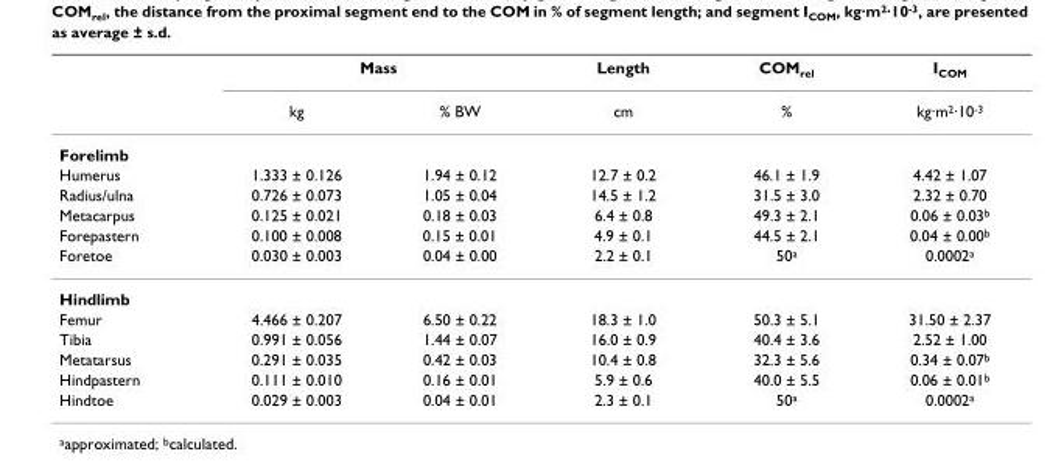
<table><thead><tr><td rowspan="2"></td><td colspan="2">Mass</td><td rowspan="2">Length cm</td><td rowspan="2">COM<sub>rel</sub> %</td><td rowspan="2">I<sub>COM</sub> kg·m<sup>2</sup>·10<sup>-3</sup></td></tr><tr><td>kg</td><td>% BW</td></tr></thead><tbody><tr><td colspan="6">Forelimb</td></tr><tr><td>Humerus</td><td>1.333 ± 0.126</td><td>1.94 ± 0.12</td><td>12.7 ± 0.2</td><td>46.1 ± 1.9</td><td>4.42 ± 1.07</td></tr><tr><td>Radius/ulna</td><td>0.726 ± 0.073</td><td>1.05 ± 0.04</td><td>14.5 ± 1.2</td><td>31.5 ± 3.0</td><td>2.32 ± 0.70</td></tr><tr><td>Metacarpus</td><td>0.125 ± 0.021</td><td>0.18 ± 0.03</td><td>6.4 ± 0.8</td><td>49.3 ± 2.1</td><td>0.06 ± 0.03<sup>b</sup></td></tr><tr><td>Forepastern</td><td>0.100 ± 0.008</td><td>0.15 ± 0.01</td><td>4.9 ± 0.1</td><td>44.5 ± 2.1</td><td>0.04 ± 0.00<sup>b</sup></td></tr><tr><td>Foretoe</td><td>0.030 ± 0.003</td><td>0.04 ± 0.00</td><td>2.2 ± 0.1</td><td>50<sup>a</sup></td><td>0.0002<sup>a</sup></td></tr><tr><td colspan="6">Hindlimb</td></tr><tr><td>Femur</td><td>4.466 ± 0.207</td><td>6.50 ± 0.22</td><td>18.3 ± 1.0</td><td>50.3 ± 5.1</td><td>31.50 ± 2.37</td></tr><tr><td>Tibia</td><td>0.991 ± 0.056</td><td>1.44 ± 0.07</td><td>16.0 ± 0.9</td><td>40.4 ± 3.6</td><td>2.52 ± 1.00</td></tr><tr><td>Metatarsus</td><td>0.291 ± 0.035</td><td>0.42 ± 0.03</td><td>10.4 ± 0.8</td><td>32.3 ± 5.6</td><td>0.34 ± 0.07<sup>b</sup></td></tr><tr><td>Hindpastern</td><td>0.111 ± 0.010</td><td>0.16 ± 0.01</td><td>5.9 ± 0.6</td><td>40.0 ± 5.5</td><td>0.06 ± 0.01<sup>b</sup></td></tr><tr><td>Hindtoe</td><td>0.029 ± 0.003</td><td>0.04 ± 0.01</td><td>2.3 ± 0.1</td><td>50<sup>a</sup></td><td>0.0002<sup>a</sup></td></tr></tbody></table>